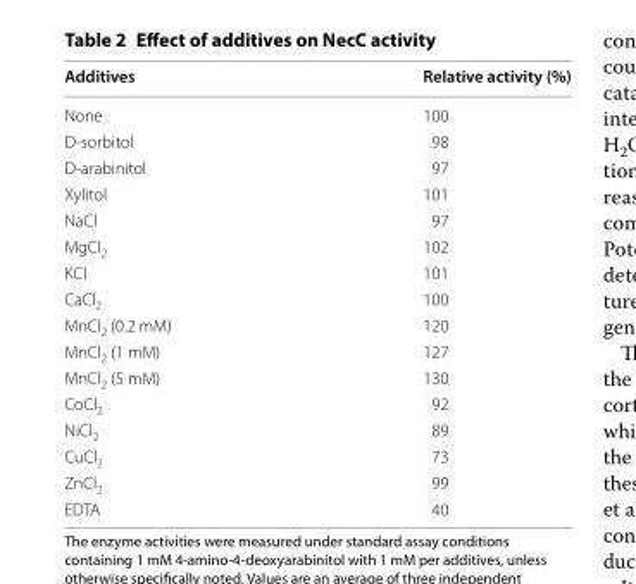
<table><thead><tr><td>Additives</td><td>Relative activity (%)</td></tr></thead><tbody><tr><td>None</td><td>100</td></tr><tr><td>D-sorbitol</td><td>98</td></tr><tr><td>D-arabinitol</td><td>97</td></tr><tr><td>Xylitol</td><td>101</td></tr><tr><td>NaCl</td><td>97</td></tr><tr><td>MgCl<sub>2</sub></td><td>102</td></tr><tr><td>KCl</td><td>101</td></tr><tr><td>CaCl<sub>2</sub></td><td>100</td></tr><tr><td>MnCl<sub>2</sub> (0.2 mM)</td><td>120</td></tr><tr><td>MnCl<sub>2</sub> (1 mM)</td><td>127</td></tr><tr><td>MnCl<sub>2</sub> (5 mM)</td><td>130</td></tr><tr><td>CoCl<sub>2</sub></td><td>92</td></tr><tr><td>NiCl<sub>2</sub></td><td>89</td></tr><tr><td>CuCl<sub>2</sub></td><td>73</td></tr><tr><td>ZnCl<sub>2</sub></td><td>99</td></tr><tr><td>EDTA</td><td>40</td></tr></tbody></table>